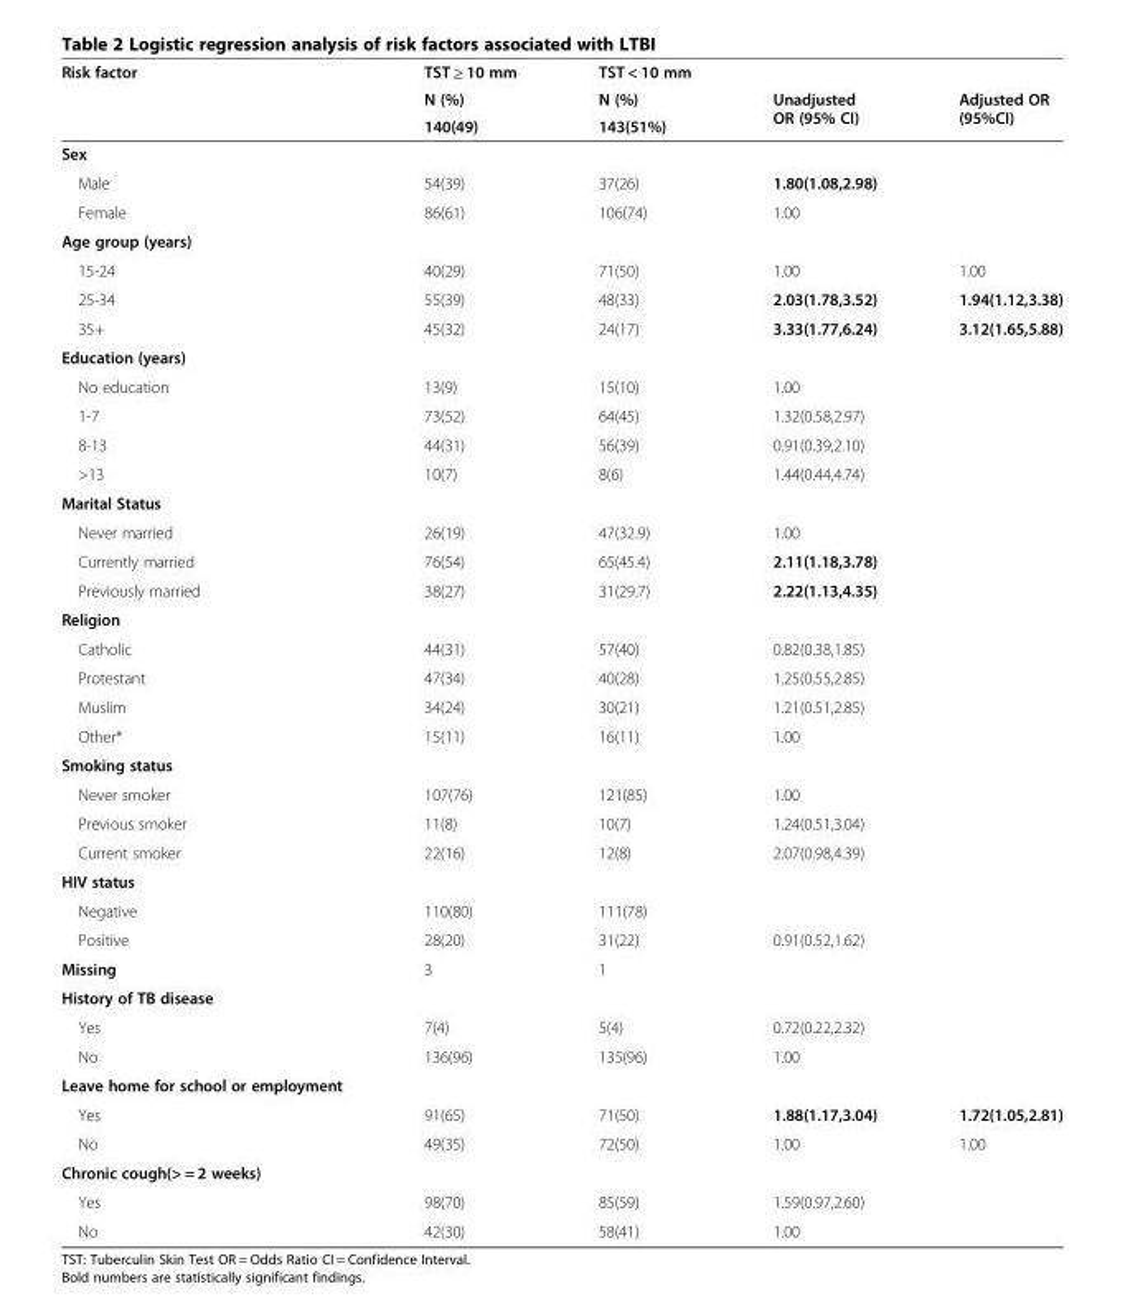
<table><thead><tr><td rowspan="3">Risk factor</td><td rowspan="3">TST ≥ 10 mm N (%) 140(49)</td><td rowspan="3">TST &lt; 10 mm N (%) 143(51%)</td><td rowspan="3">Unadjusted OR (95% CI)</td><td rowspan="3">Adjusted OR (95%CI)</td></tr><tr></tr><tr></tr></thead><tbody><tr><td colspan="5">Sex</td></tr><tr><td>Male</td><td>54(39)</td><td>37(26)</td><td>1.80(1.08,2.98)</td><td></td></tr><tr><td>Female</td><td>86(61)</td><td>106(74)</td><td>1.00</td><td></td></tr><tr><td colspan="5">Age group (years)</td></tr><tr><td>15-24</td><td>40(29)</td><td>71(50)</td><td>1.00</td><td>1.00</td></tr><tr><td>25-34</td><td>55(39)</td><td>48(33)</td><td>2.03(1.78,3.52)</td><td>1.94(1.12,3.38)</td></tr><tr><td>35+</td><td>45(32)</td><td>24(17)</td><td>3.33(1.77,6.24)</td><td>3.12(1.65,5.88)</td></tr><tr><td colspan="5">Education (years)</td></tr><tr><td>No education</td><td>13(9)</td><td>15(10)</td><td>1.00</td><td></td></tr><tr><td>1-7</td><td>73(52)</td><td>64(45)</td><td>1.32(0.58,2.97)</td><td></td></tr><tr><td>8-13</td><td>44(31)</td><td>56(39)</td><td>0.91(0.39,2.10)</td><td></td></tr><tr><td>&gt;13</td><td>10(7)</td><td>8(6)</td><td>1.44(0.44,4.74)</td><td></td></tr><tr><td colspan="5">Marital Status</td></tr><tr><td>Never married</td><td>26(19)</td><td>47(32.9)</td><td>1.00</td><td></td></tr><tr><td>Currently married</td><td>76(54)</td><td>65(45.4)</td><td>2.11(1.18,3.78)</td><td></td></tr><tr><td>Previously married</td><td>38(27)</td><td>31(29.7)</td><td>2.22(1.13,4.35)</td><td></td></tr><tr><td colspan="5">Religion</td></tr><tr><td>Catholic</td><td>44(31)</td><td>57(40)</td><td>0.82(0.38,1.85)</td><td></td></tr><tr><td>Protestant</td><td>47(34)</td><td>40(28)</td><td>1.25(0.55,2.85)</td><td></td></tr><tr><td>Muslim</td><td>34(24)</td><td>30(21)</td><td>1.21(0.51,2.85)</td><td></td></tr><tr><td>Other*</td><td>15(11)</td><td>16(11)</td><td>1.00</td><td></td></tr><tr><td colspan="5">Smoking status</td></tr><tr><td>Never smoker</td><td>107(76)</td><td>121(85)</td><td>1.00</td><td></td></tr><tr><td>Previous smoker</td><td>11(8)</td><td>10(7)</td><td>1.24(0.51,3.04)</td><td></td></tr><tr><td>Current smoker</td><td>22(16)</td><td>12(8)</td><td>2.07(0.98,4.39)</td><td></td></tr><tr><td colspan="5">HIV status</td></tr><tr><td>Negative</td><td>110(80)</td><td>111(78)</td><td></td><td></td></tr><tr><td>Positive</td><td>28(20)</td><td>31(22)</td><td>0.91(0.52,1.62)</td><td></td></tr><tr><td>Missing</td><td>3</td><td>1</td><td></td><td></td></tr><tr><td colspan="5">History of TB disease</td></tr><tr><td>Yes</td><td>7(4)</td><td>5(4)</td><td>0.72(0.22,2.32)</td><td></td></tr><tr><td>No</td><td>136(96)</td><td>135(96)</td><td>1.00</td><td></td></tr><tr><td colspan="5">Leave home for school or employment</td></tr><tr><td>Yes</td><td>91(65)</td><td>71(50)</td><td>1.88(1.17,3.04)</td><td>1.72(1.05,2.81)</td></tr><tr><td>No</td><td>49(35)</td><td>72(50)</td><td>1.00</td><td>1.00</td></tr><tr><td colspan="5">Chronic cough(&gt; = 2 weeks)</td></tr><tr><td>Yes</td><td>98(70)</td><td>85(59)</td><td>1.59(0.97,2.60)</td><td></td></tr><tr><td>No</td><td>42(30)</td><td>58(41)</td><td>1.00</td><td></td></tr></tbody></table>